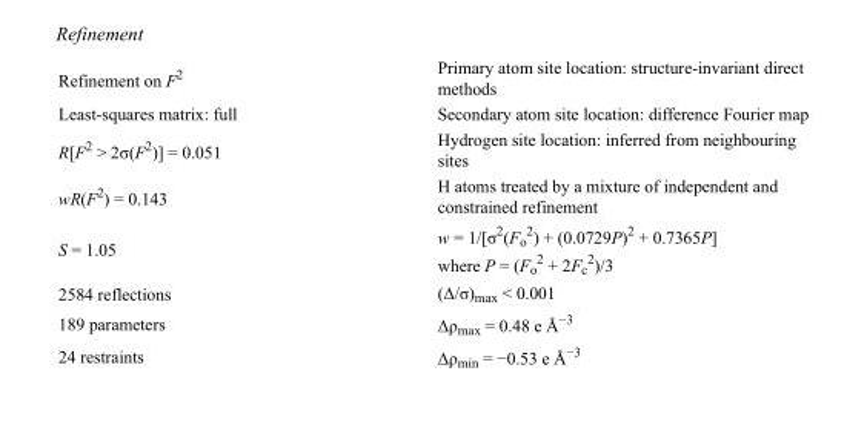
<table><tbody><tr><td>Refinement on F<sup>2</sup></td><td>Primary atom site location: structure-invariant direct methods</td></tr><tr><td>Least-squares matrix: full</td><td>Secondary atom site location: difference Fourier map</td></tr><tr><td>R[F<sup>2</sup> &gt; 2σ(F<sup>2</sup>)] = 0.051</td><td>Hydrogen site location: inferred from neighbouring sites</td></tr><tr><td>wR(F<sup>2</sup>) = 0.143</td><td>H atoms treated by a mixture of independent and constrained refinement</td></tr><tr><td>S = 1.05</td><td>w = 1/[σ<sup>2</sup>(F<sub>o</sub> <sup>2</sup>) + (0.0729P)<sup>2</sup> + 0.7365P] where P = (F<sub>o</sub> <sup>2</sup> + 2F<sub>c</sub> <sup>2</sup>)/3</td></tr><tr><td>2584 reflections</td><td>(Δ/σ)<sub>max</sub> &lt; 0.001</td></tr><tr><td>189 parameters</td><td>Δρ<sub>max</sub> = 0.48 e Å<sup>−3</sup></td></tr><tr><td>24 restraints</td><td>Δρ<sub>min</sub> = −0.53 e Å<sup>−3</sup></td></tr></tbody></table>